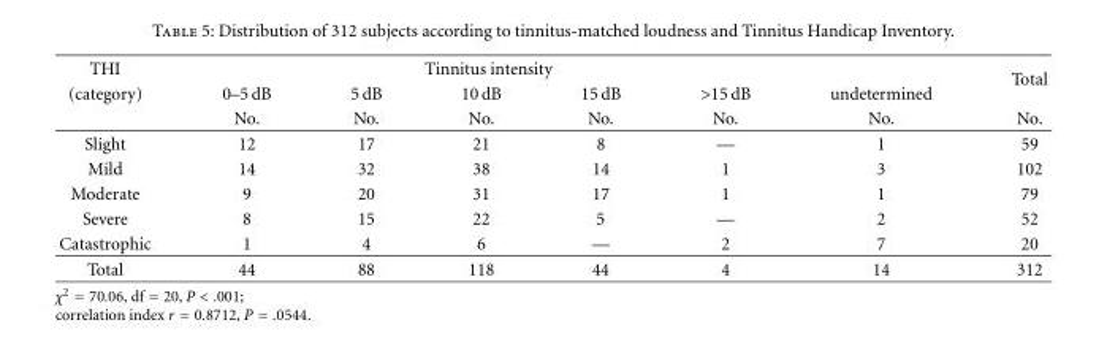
<table><thead><tr><td rowspan="3">THI (category)</td><td colspan="5">Tinnitus intensity</td><td rowspan="3">undetermined No.</td><td rowspan="3">Total No.</td></tr><tr><td rowspan="2">0–5 dB No.</td><td rowspan="2">5 dB No.</td><td rowspan="2">10 dB No.</td><td rowspan="2">15 dB No.</td><td rowspan="2">&gt;15 dB No.</td></tr><tr></tr></thead><tbody><tr><td>Slight</td><td>12</td><td>17</td><td>21</td><td>8</td><td>—</td><td>1</td><td>59</td></tr><tr><td>Mild</td><td>14</td><td>32</td><td>38</td><td>14</td><td>1</td><td>3</td><td>102</td></tr><tr><td>Moderate</td><td>9</td><td>20</td><td>31</td><td>17</td><td>1</td><td>1</td><td>79</td></tr><tr><td>Severe</td><td>8</td><td>15</td><td>22</td><td>5</td><td>—</td><td>2</td><td>52</td></tr><tr><td>Catastrophic</td><td>1</td><td>4</td><td>6</td><td>—</td><td>2</td><td>7</td><td>20</td></tr><tr><td>Total</td><td>44</td><td>88</td><td>118</td><td>44</td><td>4</td><td>14</td><td>312</td></tr></tbody></table>